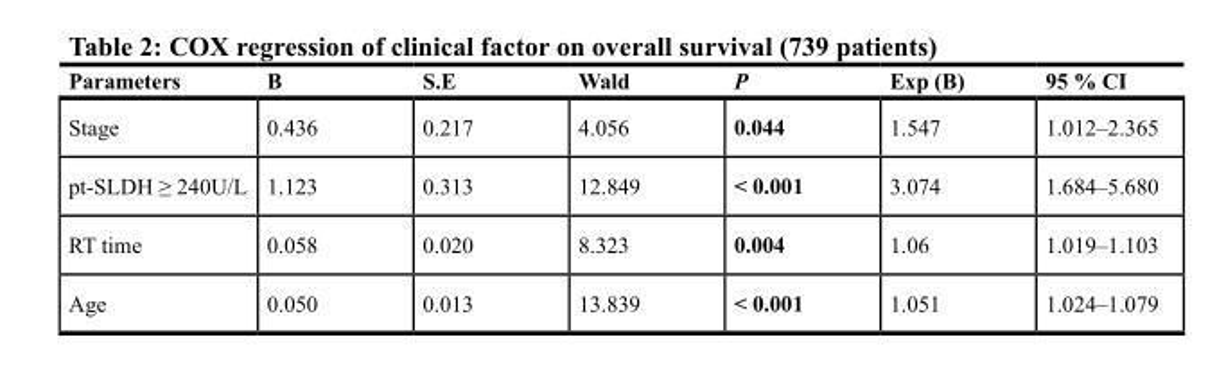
<table><thead><tr><td>Parameters</td><td>B</td><td>S.E</td><td>Wald</td><td>P</td><td>Exp (B)</td><td>95 % CI</td></tr></thead><tbody><tr><td>Stage</td><td>0.436</td><td>0.217</td><td>4.056</td><td>0.044</td><td>1.547</td><td>1.012–2.365</td></tr><tr><td>pt-SLDH ≥ 240U/L</td><td>1.123</td><td>0.313</td><td>12.849</td><td>&lt; 0.001</td><td>3.074</td><td>1.684–5.680</td></tr><tr><td>RT time</td><td>0.058</td><td>0.020</td><td>8.323</td><td>0.004</td><td>1.06</td><td>1.019–1.103</td></tr><tr><td>Age</td><td>0.050</td><td>0.013</td><td>13.839</td><td>&lt; 0.001</td><td>1.051</td><td>1.024–1.079</td></tr></tbody></table>